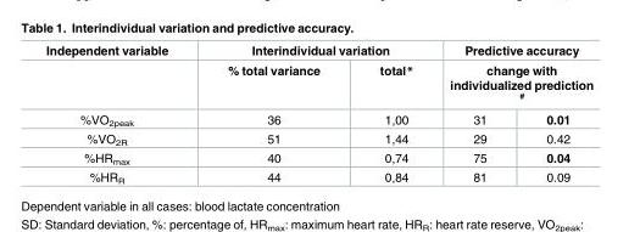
<table><thead><tr><td rowspan="3">Independent variable %VO<sub>2peak</sub></td><td colspan="2">Interindividual variation</td><td rowspan="2" colspan="2">Predictive accuracy change with individualized prediction <sup>#</sup></td></tr><tr><td rowspan="2">% total variance 36</td><td rowspan="2">total* 1,00</td></tr><tr><td>31</td><td>0.01</td></tr></thead><tbody><tr><td>%VO<sub>2R</sub></td><td>51</td><td>1,44</td><td>29</td><td>0.42</td></tr><tr><td>%HR<sub>max</sub></td><td>40</td><td>0,74</td><td>75</td><td>0.04</td></tr><tr><td>%HR<sub>R</sub></td><td>44</td><td>0,84</td><td>81</td><td>0.09</td></tr></tbody></table>